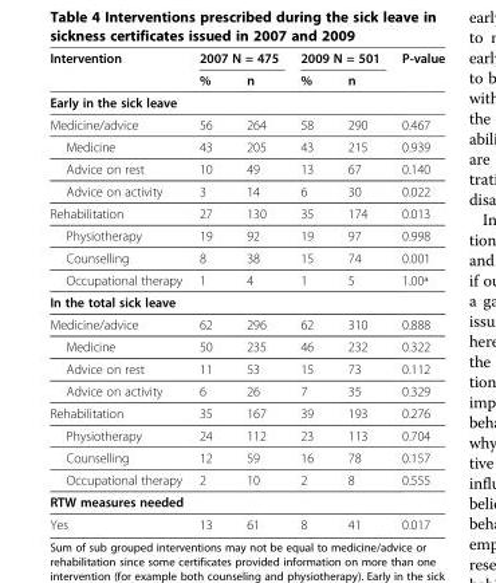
<table><thead><tr><td rowspan="2">Intervention</td><td colspan="2">2007 N = 475</td><td colspan="2">2009 N = 501</td><td rowspan="2">P-value</td></tr><tr><td>%</td><td>n</td><td>%</td><td>n</td></tr></thead><tbody><tr><td colspan="6">Early in the sick leave</td></tr><tr><td>Medicine/advice</td><td>56</td><td>264</td><td>58</td><td>290</td><td>0.467</td></tr><tr><td>Medicine</td><td>43</td><td>205</td><td>43</td><td>215</td><td>0.939</td></tr><tr><td>Advice on rest</td><td>10</td><td>49</td><td>13</td><td>67</td><td>0.140</td></tr><tr><td>Advice on activity</td><td>3</td><td>14</td><td>6</td><td>30</td><td>0.022</td></tr><tr><td>Rehabilitation</td><td>27</td><td>130</td><td>35</td><td>174</td><td>0.013</td></tr><tr><td>Physiotherapy</td><td>19</td><td>92</td><td>19</td><td>97</td><td>0.998</td></tr><tr><td>Counselling</td><td>8</td><td>38</td><td>15</td><td>74</td><td>0.001</td></tr><tr><td>Occupational therapy</td><td>1</td><td>4</td><td>1</td><td>5</td><td>1.00ª</td></tr><tr><td colspan="6">In the total sick leave</td></tr><tr><td>Medicine/advice</td><td>62</td><td>296</td><td>62</td><td>310</td><td>0.888</td></tr><tr><td>Medicine</td><td>50</td><td>235</td><td>46</td><td>232</td><td>0.322</td></tr><tr><td>Advice on rest</td><td>11</td><td>53</td><td>15</td><td>73</td><td>0.112</td></tr><tr><td>Advice on activity</td><td>6</td><td>26</td><td>7</td><td>35</td><td>0.329</td></tr><tr><td>Rehabilitation</td><td>35</td><td>167</td><td>39</td><td>193</td><td>0.276</td></tr><tr><td>Physiotherapy</td><td>24</td><td>112</td><td>23</td><td>113</td><td>0.704</td></tr><tr><td>Counselling</td><td>12</td><td>59</td><td>16</td><td>78</td><td>0.157</td></tr><tr><td>Occupational therapy</td><td>2</td><td>10</td><td>2</td><td>8</td><td>0.555</td></tr><tr><td colspan="6">RTW measures needed</td></tr><tr><td>Yes</td><td>13</td><td>61</td><td>8</td><td>41</td><td>0.017</td></tr></tbody></table>